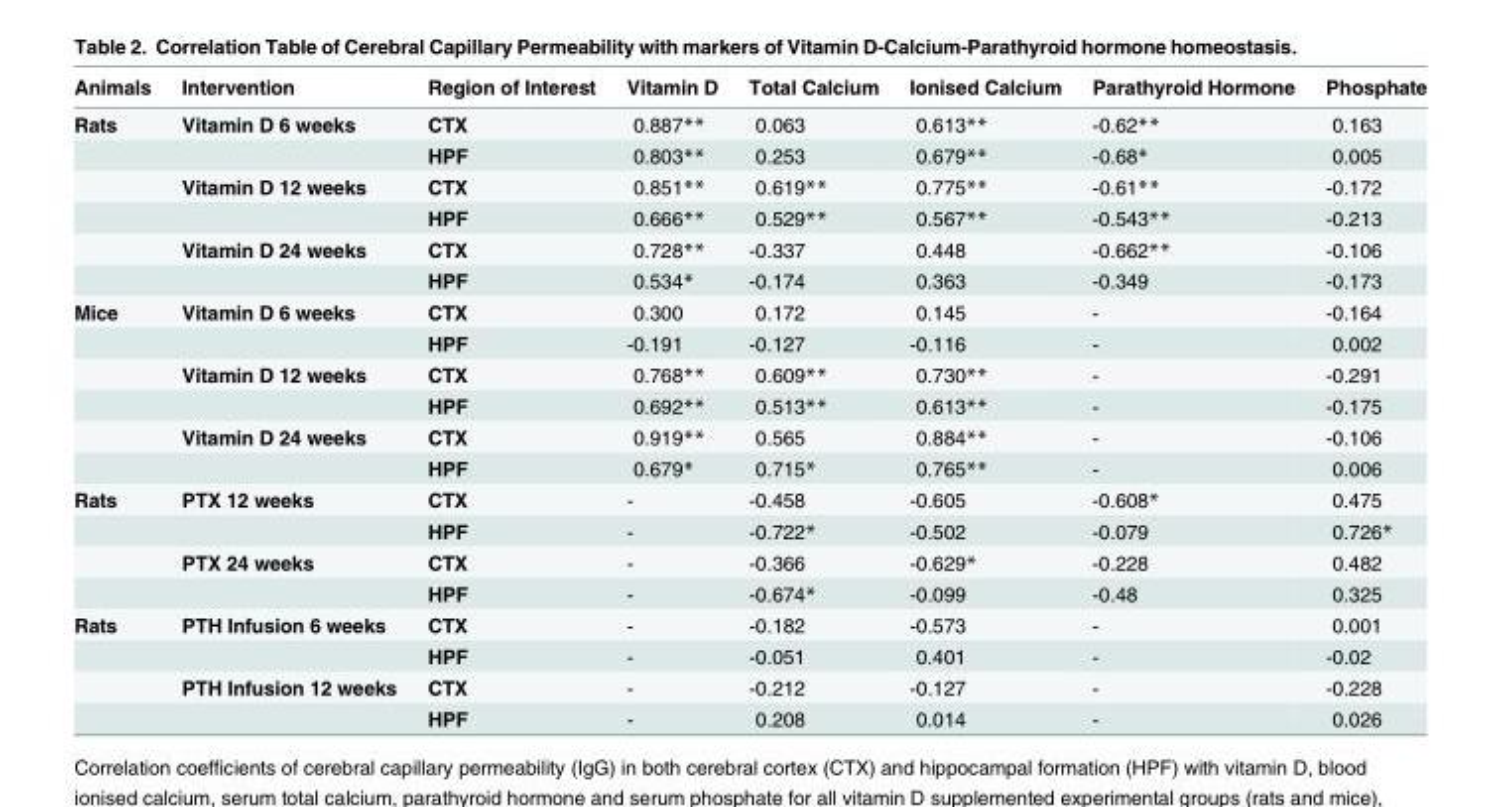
<table><thead><tr><td>Animals</td><td>Intervention</td><td>Region of Interest</td><td>Vitamin D</td><td>Total Calcium</td><td>Ionised Calcium</td><td>Parathyroid Hormone</td><td>Phosphate</td></tr></thead><tbody><tr><td rowspan="6">Rats</td><td>Vitamin D 6 weeks</td><td>CTX</td><td>0.887**</td><td>0.063</td><td>0.613**</td><td>-0.62**</td><td>0.163</td></tr><tr><td></td><td>HPF</td><td>0.803**</td><td>0.253</td><td>0.679**</td><td>-0.68*</td><td>0.005</td></tr><tr><td>Vitamin D 12 weeks</td><td>CTX</td><td>0.851**</td><td>0.619**</td><td>0.775**</td><td>-0.61**</td><td>-0.172</td></tr><tr><td></td><td>HPF</td><td>0.666**</td><td>0.529**</td><td>0.567**</td><td>-0.543**</td><td>-0.213</td></tr><tr><td>Vitamin D 24 weeks</td><td>CTX</td><td>0.728**</td><td>-0.337</td><td>0.448</td><td>-0.662**</td><td>-0.106</td></tr><tr><td></td><td>HPF</td><td>0.534*</td><td>-0.174</td><td>0.363</td><td>-0.349</td><td>-0.173</td></tr><tr><td rowspan="6">Mice</td><td>Vitamin D 6 weeks</td><td>CTX</td><td>0.300</td><td>0.172</td><td>0.145</td><td>-</td><td>-0.164</td></tr><tr><td></td><td>HPF</td><td>-0.191</td><td>-0.127</td><td>-0.116</td><td>-</td><td>0.002</td></tr><tr><td>Vitamin D 12 weeks</td><td>CTX</td><td>0.768**</td><td>0.609**</td><td>0.730**</td><td>-</td><td>-0.291</td></tr><tr><td></td><td>HPF</td><td>0.692**</td><td>0.513**</td><td>0.613**</td><td>-</td><td>-0.175</td></tr><tr><td>Vitamin D 24 weeks</td><td>CTX</td><td>0.919**</td><td>0.565</td><td>0.884**</td><td>-</td><td>-0.106</td></tr><tr><td></td><td>HPF</td><td>0.679*</td><td>0.715*</td><td>0.765**</td><td>-</td><td>0.006</td></tr><tr><td rowspan="4">Rats</td><td>PTX 12 weeks</td><td>CTX</td><td>-</td><td>-0.458</td><td>-0.605</td><td>-0.608*</td><td>0.475</td></tr><tr><td></td><td>HPF</td><td>-</td><td>-0.722*</td><td>-0.502</td><td>-0.079</td><td>0.726*</td></tr><tr><td>PTX 24 weeks</td><td>CTX</td><td>-</td><td>-0.366</td><td>-0.629*</td><td>-0.228</td><td>0.482</td></tr><tr><td></td><td>HPF</td><td>-</td><td>-0.674*</td><td>-0.099</td><td>-0.48</td><td>0.325</td></tr><tr><td rowspan="4">Rats</td><td>PTH Infusion 6 weeks</td><td>CTX</td><td>-</td><td>-0.182</td><td>-0.573</td><td>-</td><td>0.001</td></tr><tr><td></td><td>HPF</td><td>-</td><td>-0.051</td><td>0.401</td><td>-</td><td>-0.02</td></tr><tr><td>PTH Infusion 12 weeks</td><td>CTX</td><td>-</td><td>-0.212</td><td>-0.127</td><td>-</td><td>-0.228</td></tr><tr><td></td><td>HPF</td><td>-</td><td>0.208</td><td>0.014</td><td>-</td><td>0.026</td></tr></tbody></table>